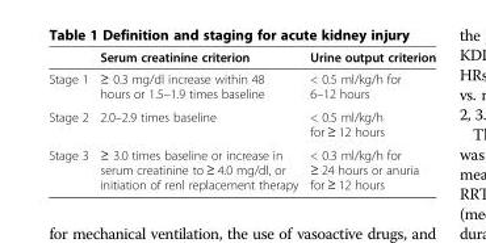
<table><thead><tr><td></td><td>Serum creatinine criterion</td><td>Urine output criterion</td></tr></thead><tbody><tr><td>Stage 1</td><td>≥ 0.3 mg/dl increase within 48 hours or 1.5–1.9 times baseline</td><td>&lt; 0.5 ml/kg/h for 6–12 hours</td></tr><tr><td>Stage 2</td><td>2.0–2.9 times baseline</td><td>&lt; 0.5 ml/kg/h for ≥ 12 hours</td></tr><tr><td>Stage 3</td><td>≥ 3.0 times baseline or increase in serum creatinine to ≥ 4.0 mg/dl, or initiation of renl replacement therapy</td><td>&lt; 0.3 ml/kg/h for ≥ 24 hours or anuria for ≥ 12 hours</td></tr></tbody></table>